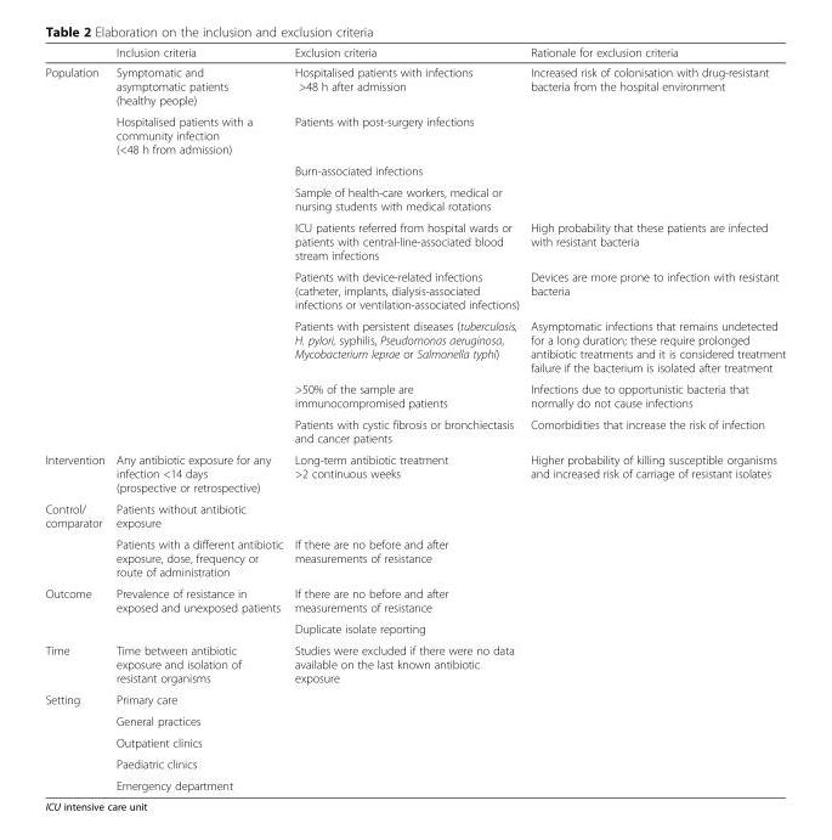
<table><thead><tr><td></td><td>Inclusion criteria</td><td>Exclusion criteria</td><td>Rationale for exclusion criteria</td></tr></thead><tbody><tr><td rowspan="9">Population</td><td>Symptomatic and asymptomatic patients (healthy people)</td><td>Hospitalised patients with infections &gt;48 h after admission</td><td>Increased risk of colonisation with drug-resistant bacteria from the hospital environment</td></tr><tr><td>Hospitalised patients with a community infection (&lt;48 h from admission)</td><td>Patients with post-surgery infections</td><td></td></tr><tr><td></td><td>Burn-associated infections</td><td></td></tr><tr><td></td><td>Sample of health-care workers, medical or nursing students with medical rotations</td><td></td></tr><tr><td></td><td>ICU patients referred from hospital wards or patients with central-line-associated blood stream infections</td><td>High probability that these patients are infected with resistant bacteria</td></tr><tr><td></td><td>Patients with device-related infections (catheter, implants, dialysis-associated infections or ventilation-associated infections)</td><td>Devices are more prone to infection with resistant bacteria</td></tr><tr><td></td><td>Patients with persistent diseases (tuberculosis, H. pylori, syphilis, Pseudomonas aeruginosa, Mycobacterium leprae or Salmonella typhi)</td><td>Asymptomatic infections that remains undetected for a long duration; these require prolonged antibiotic treatments and it is considered treatment failure if the bacterium is isolated after treatment</td></tr><tr><td></td><td>&gt;50% of the sample are immunocompromised patients</td><td>Infections due to opportunistic bacteria that normally do not cause infections</td></tr><tr><td></td><td>Patients with cystic fibrosis or bronchiectasis and cancer patients</td><td>Comorbidities that increase the risk of infection</td></tr><tr><td>Intervention</td><td>Any antibiotic exposure for any infection &lt;14 days (prospective or retrospective)</td><td>Long-term antibiotic treatment &gt;2 continuous weeks</td><td>Higher probability of killing susceptible organisms and increased risk of carriage of resistant isolates</td></tr><tr><td rowspan="2">Control/ comparator</td><td>Patients without antibiotic exposure</td><td></td><td></td></tr><tr><td>Patients with a different antibiotic exposure, dose, frequency or route of administration</td><td>If there are no before and after measurements of resistance</td><td></td></tr><tr><td rowspan="2">Outcome</td><td>Prevalence of resistance in exposed and unexposed patients</td><td>If there are no before and after measurements of resistance</td><td></td></tr><tr><td></td><td>Duplicate isolate reporting</td><td></td></tr><tr><td>Time</td><td>Time between antibiotic exposure and isolation of resistant organisms</td><td>Studies were excluded if there were no data available on the last known antibiotic exposure</td><td></td></tr><tr><td rowspan="5">Setting</td><td>Primary care</td><td></td><td></td></tr><tr><td>General practices</td><td></td><td></td></tr><tr><td>Outpatient clinics</td><td></td><td></td></tr><tr><td>Paediatric clinics</td><td></td><td></td></tr><tr><td>Emergency department</td><td></td><td></td></tr></tbody></table>